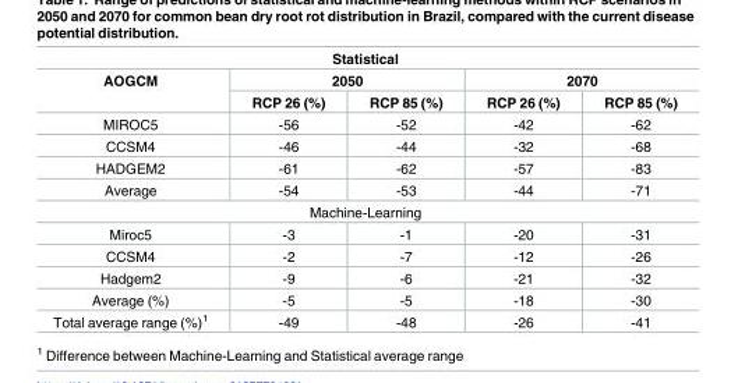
<table><thead><tr><td colspan="5">Statistical</td></tr><tr><td rowspan="2">AOGCM</td><td colspan="2">2050</td><td colspan="2">2070</td></tr><tr><td>RCP 26 (%)</td><td>RCP 85 (%)</td><td>RCP 26 (%)</td><td>RCP 85 (%)</td></tr></thead><tbody><tr><td>MIROC5</td><td>-56</td><td>-52</td><td>-42</td><td>-62</td></tr><tr><td>CCSM4</td><td>-46</td><td>-44</td><td>-32</td><td>-68</td></tr><tr><td>HADGEM2</td><td>-61</td><td>-62</td><td>-57</td><td>-83</td></tr><tr><td>Average</td><td>-54</td><td>-53</td><td>-44</td><td>-71</td></tr><tr><td colspan="5">Machine-Learning</td></tr><tr><td>Miroc5</td><td>-3</td><td>-1</td><td>-20</td><td>-31</td></tr><tr><td>CCSM4</td><td>-2</td><td>-7</td><td>-12</td><td>-26</td></tr><tr><td>Hadgem2</td><td>-9</td><td>-6</td><td>-21</td><td>-32</td></tr><tr><td>Average (%)</td><td>-5</td><td>-5</td><td>-18</td><td>-30</td></tr><tr><td>Total average range (%)<sup>1</sup></td><td>-49</td><td>-48</td><td>-26</td><td>-41</td></tr></tbody></table>